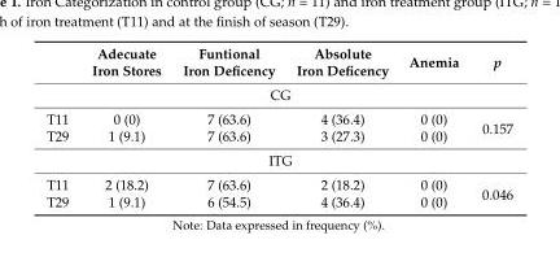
<table><thead><tr><td></td><td>Adecuate Iron Stores</td><td>Funtional Iron Deficency</td><td>Absolute Iron Deficency</td><td>Anemia</td><td>p</td></tr></thead><tbody><tr><td colspan="6">CG</td></tr><tr><td>T11</td><td>0 (0)</td><td>7 (63.6)</td><td>4 (36.4)</td><td>0 (0)</td><td rowspan="2">0.157</td></tr><tr><td>T29</td><td>1 (9.1)</td><td>7 (63.6)</td><td>3 (27.3)</td><td>0 (0)</td></tr><tr><td colspan="6">ITG</td></tr><tr><td>T11</td><td>2 (18.2)</td><td>7 (63.6)</td><td>2 (18.2)</td><td>0 (0)</td><td rowspan="2">0.046</td></tr><tr><td>T29</td><td>1 (9.1)</td><td>6 (54.5)</td><td>4 (36.4)</td><td>0 (0)</td></tr></tbody></table>